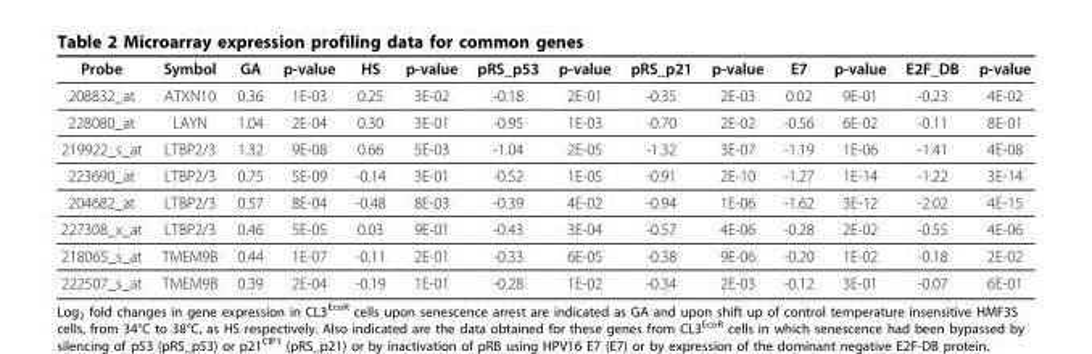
<table><thead><tr><td>Probe</td><td>Symbol</td><td>GA</td><td>p-value</td><td>HS</td><td>p-value</td><td>pRS_p53</td><td>p-value</td><td>pRS_p21</td><td>p-value</td><td>E7</td><td>p-value</td><td>E2F_DB</td><td>p-value</td></tr></thead><tbody><tr><td>208832_at</td><td>ATXN10</td><td>0.36</td><td>1E-03</td><td>0.25</td><td>3E-02</td><td>-0.18</td><td>2E-01</td><td>-0.35</td><td>2E-03</td><td>0.02</td><td>9E-01</td><td>-0.23</td><td>4E-02</td></tr><tr><td>228080_at</td><td>LAYN</td><td>1.04</td><td>2E-04</td><td>0.30</td><td>3E-01</td><td>-0.95</td><td>1E-03</td><td>-0.70</td><td>2E-02</td><td>-0.56</td><td>6E-02</td><td>-0.11</td><td>8E-01</td></tr><tr><td>219922_s_at</td><td>LTBP2/3</td><td>1.32</td><td>9E-08</td><td>0.66</td><td>5E-03</td><td>-1.04</td><td>2E-05</td><td>-1.32</td><td>3E-07</td><td>-1.19</td><td>1E-06</td><td>-1.41</td><td>4E-08</td></tr><tr><td>223690_at</td><td>LTBP2/3</td><td>0.75</td><td>5E-09</td><td>-0.14</td><td>3E-01</td><td>-0.52</td><td>1E-05</td><td>-0.91</td><td>2E-10</td><td>-1.27</td><td>1E-14</td><td>-1.22</td><td>3E-14</td></tr><tr><td>204682_at</td><td>LTBP2/3</td><td>0.57</td><td>8E-04</td><td>-0.48</td><td>8E-03</td><td>-0.39</td><td>4E-02</td><td>-0.94</td><td>1E-06</td><td>-1.62</td><td>3E-12</td><td>-2.02</td><td>4E-15</td></tr><tr><td>227308_x_at</td><td>LTBP2/3</td><td>0.46</td><td>5E-05</td><td>0.03</td><td>9E-01</td><td>-0.43</td><td>3E-04</td><td>-0.57</td><td>4E-06</td><td>-0.28</td><td>2E-02</td><td>-0.55</td><td>4E-06</td></tr><tr><td>218065_s_at</td><td>TMEM9B</td><td>0.44</td><td>1E-07</td><td>-0.11</td><td>2E-01</td><td>-0.33</td><td>6E-05</td><td>-0.38</td><td>9E-06</td><td>-0.20</td><td>1E-02</td><td>-0.18</td><td>2E-02</td></tr><tr><td>222507_s_at</td><td>TMEM9B</td><td>0.39</td><td>2E-04</td><td>-0.19</td><td>1E-01</td><td>-0.28</td><td>1E-02</td><td>-0.34</td><td>2E-03</td><td>-0.12</td><td>3E-01</td><td>-0.07</td><td>6E-01</td></tr></tbody></table>